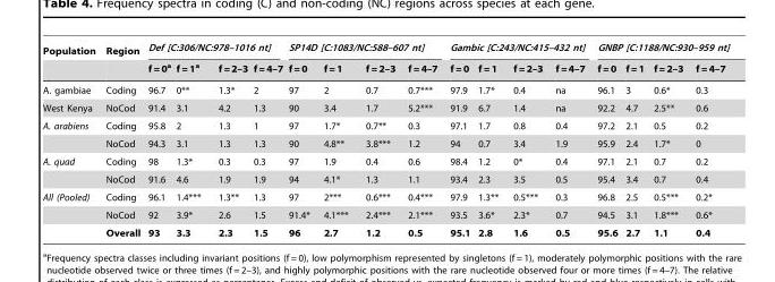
<table><thead><tr><td rowspan="2">Population</td><td rowspan="2">Region</td><td colspan="4">Def [C:306/NC:978–1016 nt]</td><td colspan="4">SP14D [C:1083/NC:588–607 nt]</td><td colspan="4">Gambic [C:243/NC:415–432 nt]</td><td colspan="4">GNBP [C:1188/NC:930–959 nt]</td></tr><tr><td>f = 0<sup>a</sup></td><td>f = 1<sup>a</sup></td><td>f = 2–3</td><td>f = 4–7</td><td>f = 0</td><td>f = 1</td><td>f = 2–3</td><td>f = 4–7</td><td>f = 0</td><td>f = 1</td><td>f = 2–3</td><td>f = 4–7</td><td>f = 0</td><td>f = 1</td><td>f = 2–3</td><td>f = 4–7</td></tr></thead><tbody><tr><td>A. gambiae</td><td>Coding</td><td>96.7</td><td>0**</td><td>1.3*</td><td>2</td><td>97</td><td>2</td><td>0.7</td><td>0.7***</td><td>97.9</td><td>1.7*</td><td>0.4</td><td>na</td><td>96.1</td><td>3</td><td>0.6*</td><td>0.3</td></tr><tr><td>West Kenya</td><td>NoCod</td><td>91.4</td><td>3.1</td><td>4.2</td><td>1.3</td><td>90</td><td>3.4</td><td>1.7</td><td>5.2***</td><td>91.9</td><td>6.7</td><td>1.4</td><td>na</td><td>92.2</td><td>4.7</td><td>2.5**</td><td>0.6</td></tr><tr><td rowspan="2">A. arabiens</td><td>Coding</td><td>95.8</td><td>2</td><td>1.3</td><td>1</td><td>97</td><td>1.7*</td><td>0.7**</td><td>0.3</td><td>97.1</td><td>1.7</td><td>0.8</td><td>0.4</td><td>97.2</td><td>2.1</td><td>0.5</td><td>0.2</td></tr><tr><td>NoCod</td><td>94.3</td><td>3.1</td><td>1.3</td><td>1.3</td><td>90</td><td>4.8**</td><td>3.8***</td><td>1.2</td><td>94</td><td>0.7</td><td>3.4</td><td>1.9</td><td>95.9</td><td>2.4</td><td>1.7*</td><td>0</td></tr><tr><td rowspan="2">A. quad</td><td>Coding</td><td>98</td><td>1.3*</td><td>0.3</td><td>0.3</td><td>97</td><td>1.9</td><td>0.4</td><td>0.6</td><td>98.4</td><td>1.2</td><td>0*</td><td>0.4</td><td>97.1</td><td>2.1</td><td>0.7</td><td>0.2</td></tr><tr><td>NoCod</td><td>91.6</td><td>4.6</td><td>1.9</td><td>1.9</td><td>94</td><td>4.1*</td><td>1.3</td><td>1.1</td><td>93.4</td><td>2.3</td><td>3.5</td><td>0.5</td><td>95.4</td><td>3.4</td><td>0.7</td><td>0.4</td></tr><tr><td rowspan="3">All (Pooled)</td><td>Coding</td><td>96.1</td><td>1.4***</td><td>1.3**</td><td>1.3</td><td>97</td><td>2***</td><td>0.6***</td><td>0.4***</td><td>97.9</td><td>1.3**</td><td>0.5***</td><td>0.3</td><td>96.8</td><td>2.5</td><td>0.5***</td><td>0.2*</td></tr><tr><td>NoCod</td><td>92</td><td>3.9*</td><td>2.6</td><td>1.5</td><td>91.4*</td><td>4.1***</td><td>2.4***</td><td>2.1***</td><td>93.5</td><td>3.6*</td><td>2.3*</td><td>0.7</td><td>94.5</td><td>3.1</td><td>1.8***</td><td>0.6*</td></tr><tr><td>Overall</td><td>93</td><td>3.3</td><td>2.3</td><td>1.5</td><td>96</td><td>2.7</td><td>1.2</td><td>0.5</td><td>95.1</td><td>2.8</td><td>1.6</td><td>0.5</td><td>95.6</td><td>2.7</td><td>1.1</td><td>0.4</td></tr></tbody></table>